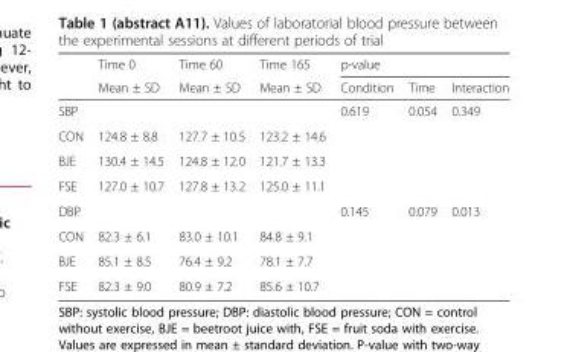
<table><thead><tr><td rowspan="2"></td><td rowspan="2">Time 0 Mean ± SD</td><td rowspan="2">Time 60 Mean ± SD</td><td rowspan="2">Time 165 Mean ± SD</td><td colspan="3">p-value</td></tr><tr><td>Condition</td><td>Time</td><td>Interaction</td></tr></thead><tbody><tr><td>SBP</td><td></td><td></td><td></td><td>0.619</td><td>0.054</td><td>0.349</td></tr><tr><td>CON</td><td>124.8 ± 8.8</td><td>127.7 ± 10.5</td><td>123.2 ± 14.6</td><td></td><td></td><td></td></tr><tr><td>BJE</td><td>130.4 ± 14.5</td><td>124.8 ± 12.0</td><td>121.7 ± 13.3</td><td></td><td></td><td></td></tr><tr><td>FSE</td><td>127.0 ± 10.7</td><td>127.8 ± 13.2</td><td>125.0 ± 11.1</td><td></td><td></td><td></td></tr><tr><td>DBP</td><td></td><td></td><td></td><td>0.145</td><td>0.079</td><td>0.013</td></tr><tr><td>CON</td><td>82.3 ± 6.1</td><td>83.0 ± 10.1</td><td>84.8 ± 9.1</td><td></td><td></td><td></td></tr><tr><td>BJE</td><td>85.1 ± 8.5</td><td>76.4 ± 9.2</td><td>78.1 ± 7.7</td><td></td><td></td><td></td></tr><tr><td>FSE</td><td>82.3 ± 9.0</td><td>80.9 ± 7.2</td><td>85.6 ± 10.7</td><td></td><td></td><td></td></tr></tbody></table>